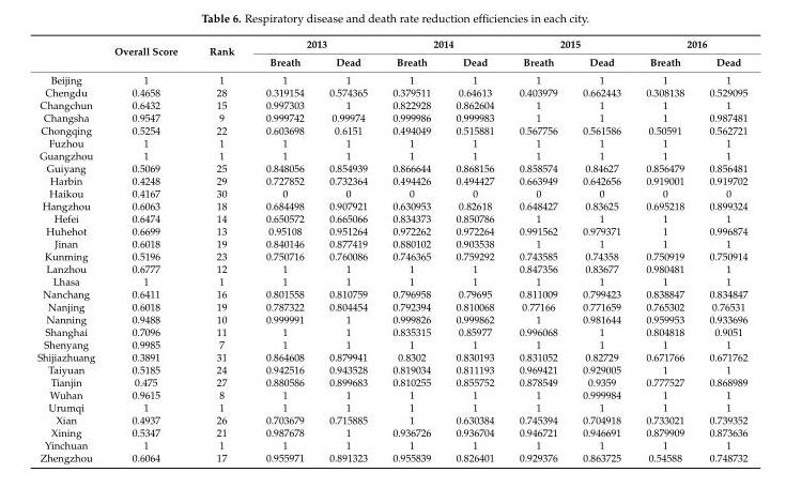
<table><thead><tr><td rowspan="2"></td><td rowspan="2">Overall Score</td><td rowspan="2">Rank</td><td colspan="2">2013</td><td colspan="2">2014</td><td colspan="2">2015</td><td colspan="2">2016</td></tr><tr><td>Breath</td><td>Dead</td><td>Breath</td><td>Dead</td><td>Breath</td><td>Dead</td><td>Breath</td><td>Dead</td></tr></thead><tbody><tr><td>Beijing</td><td>1</td><td>1</td><td>1</td><td>1</td><td>1</td><td>1</td><td>1</td><td>1</td><td>1</td><td>1</td></tr><tr><td>Chengdu</td><td>0.4658</td><td>28</td><td>0.319154</td><td>0.574365</td><td>0.379511</td><td>0.64613</td><td>0.403979</td><td>0.662443</td><td>0.308138</td><td>0.529095</td></tr><tr><td>Changchun</td><td>0.6432</td><td>15</td><td>0.997303</td><td>1</td><td>0.822928</td><td>0.862604</td><td>1</td><td>1</td><td>1</td><td>1</td></tr><tr><td>Changsha</td><td>0.9547</td><td>9</td><td>0.999742</td><td>0.99974</td><td>0.999986</td><td>0.999983</td><td>1</td><td>1</td><td>1</td><td>0.987481</td></tr><tr><td>Chongqing</td><td>0.5254</td><td>22</td><td>0.603698</td><td>0.6151</td><td>0.494049</td><td>0.515881</td><td>0.567756</td><td>0.561586</td><td>0.50591</td><td>0.562721</td></tr><tr><td>Fuzhou</td><td>1</td><td>1</td><td>1</td><td>1</td><td>1</td><td>1</td><td>1</td><td>1</td><td>1</td><td>1</td></tr><tr><td>Guangzhou</td><td>1</td><td>1</td><td>1</td><td>1</td><td>1</td><td>1</td><td>1</td><td>1</td><td>1</td><td>1</td></tr><tr><td>Guiyang</td><td>0.5069</td><td>25</td><td>0.848056</td><td>0.854939</td><td>0.866644</td><td>0.868156</td><td>0.858574</td><td>0.84627</td><td>0.856479</td><td>0.856481</td></tr><tr><td>Harbin</td><td>0.4248</td><td>29</td><td>0.727852</td><td>0.732364</td><td>0.494426</td><td>0.494427</td><td>0.663949</td><td>0.642656</td><td>0.919001</td><td>0.919702</td></tr><tr><td>Haikou</td><td>0.4167</td><td>30</td><td>0</td><td>0</td><td>0</td><td>0</td><td>0</td><td>0</td><td>0</td><td>0</td></tr><tr><td>Hangzhou</td><td>0.6063</td><td>18</td><td>0.684498</td><td>0.907921</td><td>0.630953</td><td>0.82618</td><td>0.648427</td><td>0.83625</td><td>0.695218</td><td>0.899324</td></tr><tr><td>Hefei</td><td>0.6474</td><td>14</td><td>0.650572</td><td>0.665066</td><td>0.834373</td><td>0.850786</td><td>1</td><td>1</td><td>1</td><td>1</td></tr><tr><td>Huhehot</td><td>0.6699</td><td>13</td><td>0.95108</td><td>0.951264</td><td>0.972262</td><td>0.972264</td><td>0.991562</td><td>0.979371</td><td>1</td><td>0.996874</td></tr><tr><td>Jinan</td><td>0.6018</td><td>19</td><td>0.840146</td><td>0.877419</td><td>0.880102</td><td>0.903538</td><td>1</td><td>1</td><td>1</td><td>1</td></tr><tr><td>Kunming</td><td>0.5196</td><td>23</td><td>0.750716</td><td>0.760086</td><td>0.746365</td><td>0.759292</td><td>0.743585</td><td>0.74358</td><td>0.750919</td><td>0.750914</td></tr><tr><td>Lanzhou</td><td>0.6777</td><td>12</td><td>1</td><td>1</td><td>1</td><td>1</td><td>0.847356</td><td>0.83677</td><td>0.980481</td><td>1</td></tr><tr><td>Lhasa</td><td>1</td><td>1</td><td>1</td><td>1</td><td>1</td><td>1</td><td>1</td><td>1</td><td>1</td><td>1</td></tr><tr><td>Nanchang</td><td>0.6411</td><td>16</td><td>0.801558</td><td>0.810759</td><td>0.796958</td><td>0.79695</td><td>0.811009</td><td>0.799423</td><td>0.838847</td><td>0.834847</td></tr><tr><td>Nanjing</td><td>0.6018</td><td>19</td><td>0.787322</td><td>0.804454</td><td>0.792394</td><td>0.810068</td><td>0.77166</td><td>0.771659</td><td>0.765302</td><td>0.76531</td></tr><tr><td>Nanning</td><td>0.9488</td><td>10</td><td>0.999991</td><td>1</td><td>0.999826</td><td>0.999862</td><td>1</td><td>0.981644</td><td>0.959953</td><td>0.933696</td></tr><tr><td>Shanghai</td><td>0.7096</td><td>11</td><td>1</td><td>1</td><td>0.835315</td><td>0.85977</td><td>0.996068</td><td>1</td><td>0.804818</td><td>0.9051</td></tr><tr><td>Shenyang</td><td>0.9985</td><td>7</td><td>1</td><td>1</td><td>1</td><td>1</td><td>1</td><td>1</td><td>1</td><td>1</td></tr><tr><td>Shijiazhuang</td><td>0.3891</td><td>31</td><td>0.864608</td><td>0.879941</td><td>0.8302</td><td>0.830193</td><td>0.831052</td><td>0.82729</td><td>0.671766</td><td>0.671762</td></tr><tr><td>Taiyuan</td><td>0.5185</td><td>24</td><td>0.942516</td><td>0.943528</td><td>0.819034</td><td>0.811193</td><td>0.969421</td><td>0.929005</td><td>1</td><td>1</td></tr><tr><td>Tianjin</td><td>0.475</td><td>27</td><td>0.880586</td><td>0.899683</td><td>0.810255</td><td>0.855752</td><td>0.878549</td><td>0.9359</td><td>0.777527</td><td>0.868989</td></tr><tr><td>Wuhan</td><td>0.9615</td><td>8</td><td>1</td><td>1</td><td>1</td><td>1</td><td>1</td><td>0.999984</td><td>1</td><td>1</td></tr><tr><td>Urumqi</td><td>1</td><td>1</td><td>1</td><td>1</td><td>1</td><td>1</td><td>1</td><td>1</td><td>1</td><td>1</td></tr><tr><td>Xian</td><td>0.4937</td><td>26</td><td>0.703679</td><td>0.715885</td><td>1</td><td>0.630384</td><td>0.745394</td><td>0.704918</td><td>0.733021</td><td>0.739352</td></tr><tr><td>Xining</td><td>0.5347</td><td>21</td><td>0.987678</td><td>1</td><td>0.936726</td><td>0.936704</td><td>0.946721</td><td>0.946691</td><td>0.879909</td><td>0.873636</td></tr><tr><td>Yinchuan</td><td>1</td><td>1</td><td>1</td><td>1</td><td>1</td><td>1</td><td>1</td><td>1</td><td>1</td><td>1</td></tr><tr><td>Zhengzhou</td><td>0.6064</td><td>17</td><td>0.955971</td><td>0.891323</td><td>0.955839</td><td>0.826401</td><td>0.929376</td><td>0.863725</td><td>0.54588</td><td>0.748732</td></tr></tbody></table>